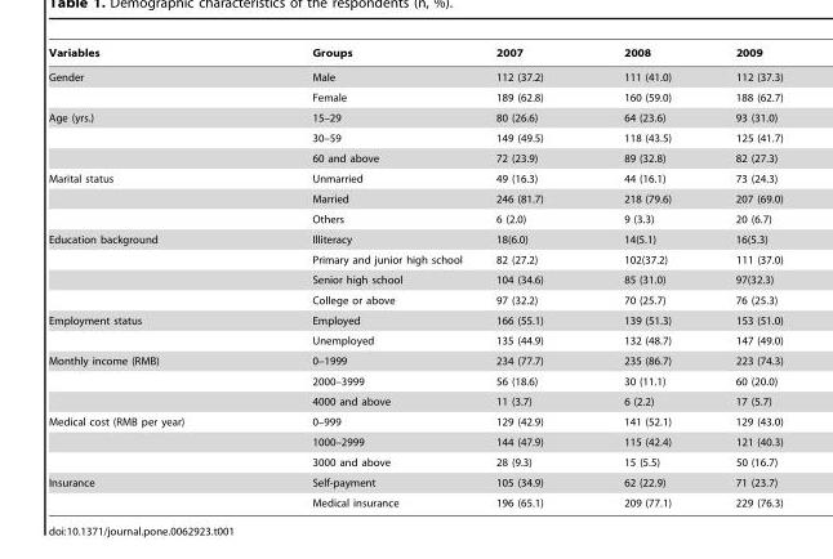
<table><thead><tr><td>Variables</td><td>Groups</td><td>2007</td><td>2008</td><td>2009</td></tr></thead><tbody><tr><td rowspan="2">Gender</td><td>Male</td><td>112 (37.2)</td><td>111 (41.0)</td><td>112 (37.3)</td></tr><tr><td>Female</td><td>189 (62.8)</td><td>160 (59.0)</td><td>188 (62.7)</td></tr><tr><td rowspan="3">Age (yrs.)</td><td>15–29</td><td>80 (26.6)</td><td>64 (23.6)</td><td>93 (31.0)</td></tr><tr><td>30–59</td><td>149 (49.5)</td><td>118 (43.5)</td><td>125 (41.7)</td></tr><tr><td>60 and above</td><td>72 (23.9)</td><td>89 (32.8)</td><td>82 (27.3)</td></tr><tr><td rowspan="3">Marital status</td><td>Unmarried</td><td>49 (16.3)</td><td>44 (16.1)</td><td>73 (24.3)</td></tr><tr><td>Married</td><td>246 (81.7)</td><td>218 (79.6)</td><td>207 (69.0)</td></tr><tr><td>Others</td><td>6 (2.0)</td><td>9 (3.3)</td><td>20 (6.7)</td></tr><tr><td rowspan="4">Education background</td><td>Illiteracy</td><td>18(6.0)</td><td>14(5.1)</td><td>16(5.3)</td></tr><tr><td>Primary and junior high school</td><td>82 (27.2)</td><td>102(37.2)</td><td>111 (37.0)</td></tr><tr><td>Senior high school</td><td>104 (34.6)</td><td>85 (31.0)</td><td>97(32.3)</td></tr><tr><td>College or above</td><td>97 (32.2)</td><td>70 (25.7)</td><td>76 (25.3)</td></tr><tr><td rowspan="2">Employment status</td><td>Employed</td><td>166 (55.1)</td><td>139 (51.3)</td><td>153 (51.0)</td></tr><tr><td>Unemployed</td><td>135 (44.9)</td><td>132 (48.7)</td><td>147 (49.0)</td></tr><tr><td rowspan="3">Monthly income (RMB)</td><td>0–1999</td><td>234 (77.7)</td><td>235 (86.7)</td><td>223 (74.3)</td></tr><tr><td>2000–3999</td><td>56 (18.6)</td><td>30 (11.1)</td><td>60 (20.0)</td></tr><tr><td>4000 and above</td><td>11 (3.7)</td><td>6 (2.2)</td><td>17 (5.7)</td></tr><tr><td rowspan="3">Medical cost (RMB per year)</td><td>0–999</td><td>129 (42.9)</td><td>141 (52.1)</td><td>129 (43.0)</td></tr><tr><td>1000–2999</td><td>144 (47.9)</td><td>115 (42.4)</td><td>121 (40.3)</td></tr><tr><td>3000 and above</td><td>28 (9.3)</td><td>15 (5.5)</td><td>50 (16.7)</td></tr><tr><td rowspan="2">Insurance</td><td>Self-payment</td><td>105 (34.9)</td><td>62 (22.9)</td><td>71 (23.7)</td></tr><tr><td>Medical insurance</td><td>196 (65.1)</td><td>209 (77.1)</td><td>229 (76.3)</td></tr></tbody></table>